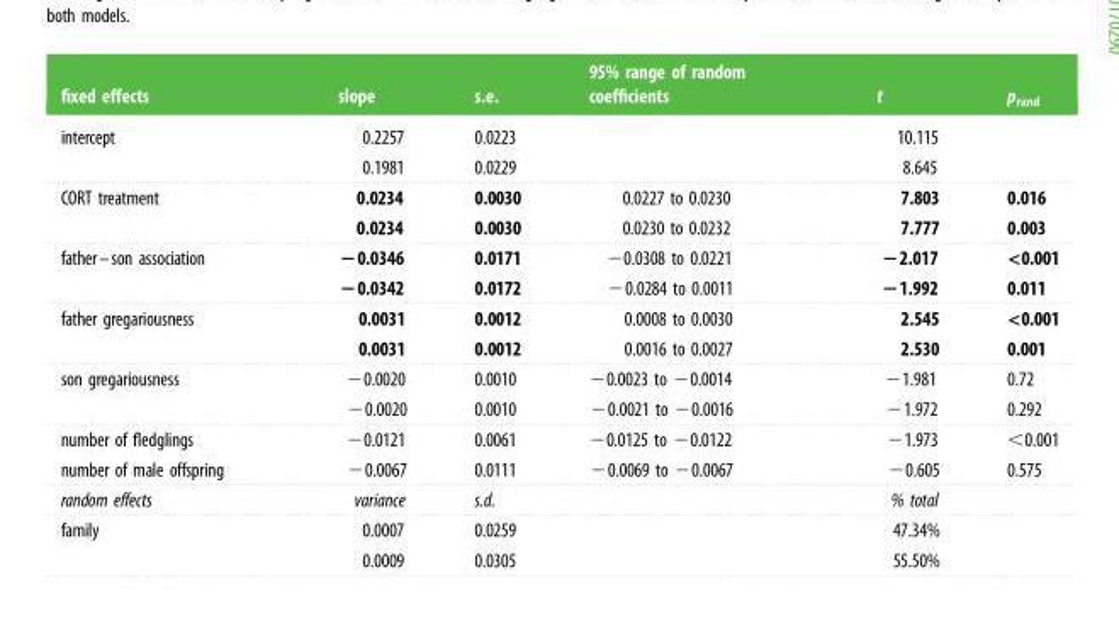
<table><thead><tr><td>fixed effects</td><td>slope</td><td>s.e.</td><td>95% range of random coefficients</td><td>t</td><td>p<sub>rand</sub></td></tr></thead><tbody><tr><td>intercept</td><td>0.2257 0.1981</td><td>0.0223 0.0229</td><td></td><td>10.115 8.645</td><td></td></tr><tr><td>CORT treatment</td><td>0.0234 0.0234</td><td>0.0030 0.0030</td><td>0.0227 to 0.0230 0.0230 to 0.0232</td><td>7.803 7.777</td><td>0.016 0.003</td></tr><tr><td>father–son association</td><td>−0.0346 −0.0342</td><td>0.0171 0.0172</td><td>−0.0308 to 0.0221 −0.0284 to 0.0011</td><td>−2.017 −1.992</td><td>&lt;0.001 0.011</td></tr><tr><td>father gregariousness</td><td>0.0031 0.0031</td><td>0.0012 0.0012</td><td>0.0008 to 0.0030 0.0016 to 0.0027</td><td>2.545 2.530</td><td>&lt;0.001 0.001</td></tr><tr><td>son gregariousness</td><td>−0.0020 −0.0020</td><td>0.0010 0.0010</td><td>−0.0023 to −0.0014 −0.0021 to −0.0016</td><td>−1.981 −1.972</td><td>0.72 0.292</td></tr><tr><td>number of fledglings number of male offspring</td><td>−0.0121 −0.0067</td><td>0.0061 0.0111</td><td>−0.0125 to −0.0122 −0.0069 to −0.0067</td><td>−1.973 −0.605</td><td>&lt;0.001 0.575</td></tr><tr><td>random effects</td><td>variance</td><td>s.d.</td><td></td><td>% total</td><td></td></tr><tr><td>family</td><td>0.0007 0.0009</td><td>0.0259 0.0305</td><td></td><td>47.34% 55.50%</td><td></td></tr></tbody></table>